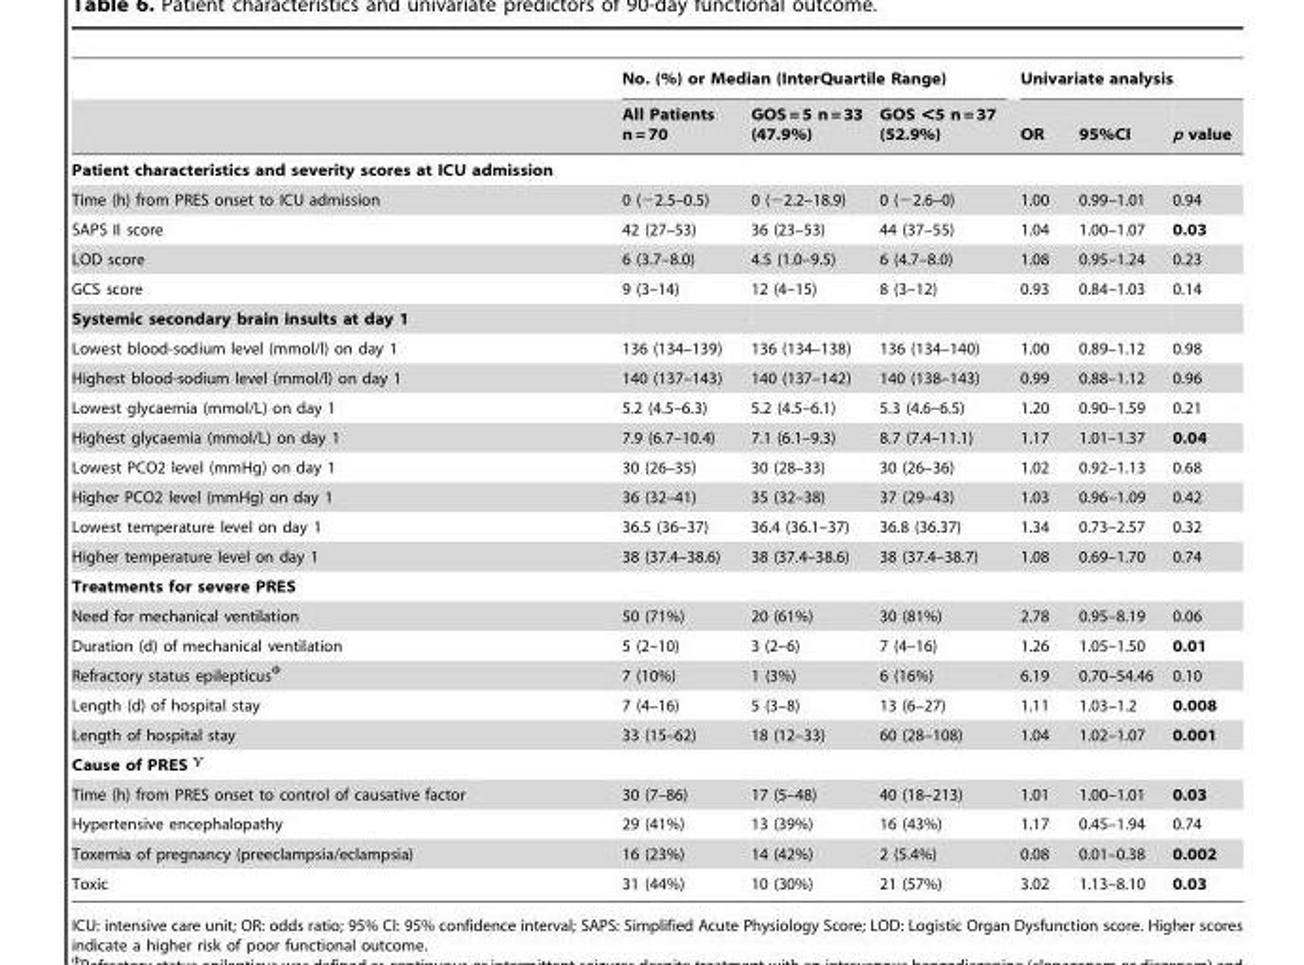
<table><thead><tr><td rowspan="2"></td><td colspan="3">No. (%) or Median (InterQuartile Range)</td><td colspan="3">Univariate analysis</td></tr><tr><td>All Patients n = 70</td><td>GOS = 5 n = 33 (47.9%)</td><td>GOS &lt;5 n = 37 (52.9%)</td><td>OR</td><td>95%CI</td><td>p value</td></tr></thead><tbody><tr><td colspan="7">Patient characteristics and severity scores at ICU admission</td></tr><tr><td>Time (h) from PRES onset to ICU admission</td><td>0 (−2.5–0.5)</td><td>0 (−2.2–18.9)</td><td>0 (−2.6–0)</td><td>1.00</td><td>0.99–1.01</td><td>0.94</td></tr><tr><td>SAPS II score</td><td>42 (27–53)</td><td>36 (23–53)</td><td>44 (37–55)</td><td>1.04</td><td>1.00–1.07</td><td>0.03</td></tr><tr><td>LOD score</td><td>6 (3.7–8.0)</td><td>4.5 (1.0–9.5)</td><td>6 (4.7–8.0)</td><td>1.08</td><td>0.95–1.24</td><td>0.23</td></tr><tr><td>GCS score</td><td>9 (3–14)</td><td>12 (4–15)</td><td>8 (3–12)</td><td>0.93</td><td>0.84–1.03</td><td>0.14</td></tr><tr><td colspan="7">Systemic secondary brain insults at day 1</td></tr><tr><td>Lowest blood-sodium level (mmol/l) on day 1</td><td>136 (134–139)</td><td>136 (134–138)</td><td>136 (134–140)</td><td>1.00</td><td>0.89–1.12</td><td>0.98</td></tr><tr><td>Highest blood-sodium level (mmol/l) on day 1</td><td>140 (137–143)</td><td>140 (137–142)</td><td>140 (138–143)</td><td>0.99</td><td>0.88–1.12</td><td>0.96</td></tr><tr><td>Lowest glycaemia (mmol/L) on day 1</td><td>5.2 (4.5–6.3)</td><td>5.2 (4.5–6.1)</td><td>5.3 (4.6–6.5)</td><td>1.20</td><td>0.90–1.59</td><td>0.21</td></tr><tr><td>Highest glycaemia (mmol/L) on day 1</td><td>7.9 (6.7–10.4)</td><td>7.1 (6.1–9.3)</td><td>8.7 (7.4–11.1)</td><td>1.17</td><td>1.01–1.37</td><td>0.04</td></tr><tr><td>Lowest PCO2 level (mmHg) on day 1</td><td>30 (26–35)</td><td>30 (28–33)</td><td>30 (26–36)</td><td>1.02</td><td>0.92–1.13</td><td>0.68</td></tr><tr><td>Higher PCO2 level (mmHg) on day 1</td><td>36 (32–41)</td><td>35 (32–38)</td><td>37 (29–43)</td><td>1.03</td><td>0.96–1.09</td><td>0.42</td></tr><tr><td>Lowest temperature level on day 1</td><td>36.5 (36–37)</td><td>36.4 (36.1–37)</td><td>36.8 (36.37)</td><td>1.34</td><td>0.73–2.57</td><td>0.32</td></tr><tr><td>Higher temperature level on day 1</td><td>38 (37.4–38.6)</td><td>38 (37.4–38.6)</td><td>38 (37.4–38.7)</td><td>1.08</td><td>0.69–1.70</td><td>0.74</td></tr><tr><td colspan="7">Treatments for severe PRES</td></tr><tr><td>Need for mechanical ventilation</td><td>50 (71%)</td><td>20 (61%)</td><td>30 (81%)</td><td>2.78</td><td>0.95–8.19</td><td>0.06</td></tr><tr><td>Duration (d) of mechanical ventilation</td><td>5 (2–10)</td><td>3 (2–6)</td><td>7 (4–16)</td><td>1.26</td><td>1.05–1.50</td><td>0.01</td></tr><tr><td>Refractory status epilepticusФ</td><td>7 (10%)</td><td>1 (3%)</td><td>6 (16%)</td><td>6.19</td><td>0.70–54.46</td><td>0.10</td></tr><tr><td>Length (d) of hospital stay</td><td>7 (4–16)</td><td>5 (3–8)</td><td>13 (6–27)</td><td>1.11</td><td>1.03–1.2</td><td>0.008</td></tr><tr><td>Length of hospital stay</td><td>33 (15–62)</td><td>18 (12–33)</td><td>60 (28–108)</td><td>1.04</td><td>1.02–1.07</td><td>0.001</td></tr><tr><td colspan="7">Cause of PRES</td></tr><tr><td>Time (h) from PRES onset to control of causative factor</td><td>30 (7–86)</td><td>17 (5–48)</td><td>40 (18–213)</td><td>1.01</td><td>1.00–1.01</td><td>0.03</td></tr><tr><td>Hypertensive encephalopathy</td><td>29 (41%)</td><td>13 (39%)</td><td>16 (43%)</td><td>1.17</td><td>0.45–1.94</td><td>0.74</td></tr><tr><td>Toxemia of pregnancy (preeclampsia/eclampsia)</td><td>16 (23%)</td><td>14 (42%)</td><td>2 (5.4%)</td><td>0.08</td><td>0.01–0.38</td><td>0.002</td></tr><tr><td>Toxic</td><td>31 (44%)</td><td>10 (30%)</td><td>21 (57%)</td><td>3.02</td><td>1.13–8.10</td><td>0.03</td></tr></tbody></table>